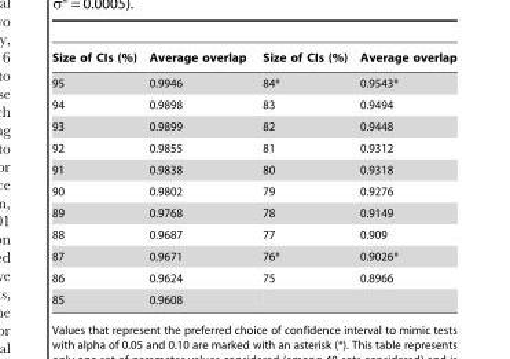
<table><thead><tr><td>Size of CIs (%)</td><td>Average overlap</td><td>Size of CIs (%)</td><td>Average overlap</td></tr></thead><tbody><tr><td>95</td><td>0.9946</td><td>84*</td><td>0.9543*</td></tr><tr><td>94</td><td>0.9898</td><td>83</td><td>0.9494</td></tr><tr><td>93</td><td>0.9899</td><td>82</td><td>0.9448</td></tr><tr><td>92</td><td>0.9855</td><td>81</td><td>0.9312</td></tr><tr><td>91</td><td>0.9838</td><td>80</td><td>0.9318</td></tr><tr><td>90</td><td>0.9802</td><td>79</td><td>0.9276</td></tr><tr><td>89</td><td>0.9768</td><td>78</td><td>0.9149</td></tr><tr><td>88</td><td>0.9687</td><td>77</td><td>0.909</td></tr><tr><td>87</td><td>0.9671</td><td>76*</td><td>0.9026*</td></tr><tr><td>86</td><td>0.9624</td><td>75</td><td>0.8966</td></tr><tr><td>85</td><td>0.9608</td><td></td><td></td></tr></tbody></table>